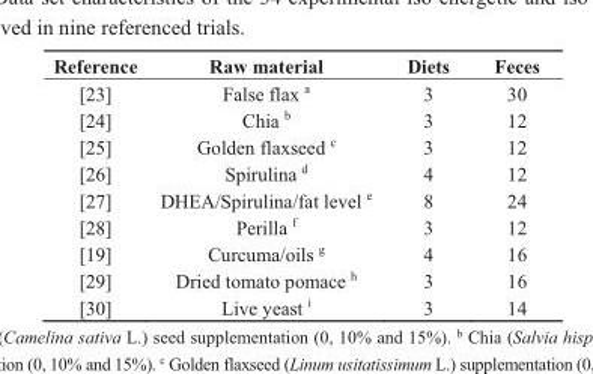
<table><thead><tr><td>Reference</td><td>Raw material</td><td>Diets</td><td>Feces</td></tr></thead><tbody><tr><td>[23]</td><td>False flax <sup>a</sup></td><td>3</td><td>30</td></tr><tr><td>[24]</td><td>Chia <sup>b</sup></td><td>3</td><td>12</td></tr><tr><td>[25]</td><td>Golden flaxseed <sup>c</sup></td><td>3</td><td>12</td></tr><tr><td>[26]</td><td>Spirulina <sup>d</sup></td><td>4</td><td>12</td></tr><tr><td>[27]</td><td>DHEA/Spirulina/fat level <sup>e</sup></td><td>8</td><td>24</td></tr><tr><td>[28]</td><td>Perilla <sup>f</sup></td><td>3</td><td>12</td></tr><tr><td>[19]</td><td>Curcuma/oils <sup>g</sup></td><td>4</td><td>16</td></tr><tr><td>[29]</td><td>Dried tomato pomace <sup>h</sup></td><td>3</td><td>16</td></tr><tr><td>[30]</td><td>Live yeast <sup>i</sup></td><td>3</td><td>14</td></tr></tbody></table>